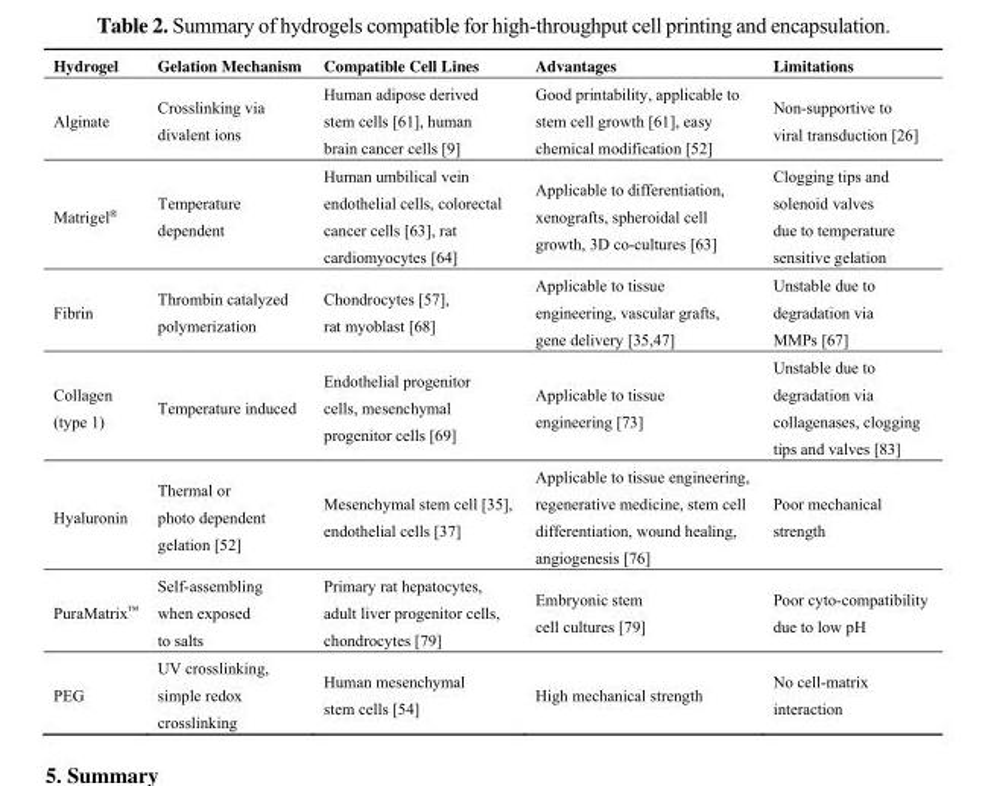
<table><thead><tr><td>Hydrogel</td><td>Gelation Mechanism</td><td>Compatible Cell Lines</td><td>Advantages</td><td>Limitations</td></tr></thead><tbody><tr><td>Alginate</td><td>Crosslinking via divalent ions</td><td>Human adipose derived stem cells [61], human brain cancer cells [9]</td><td>Good printability, applicable to stem cell growth [61], easy chemical modification [52]</td><td>Non-supportive to viral transduction [26]</td></tr><tr><td>Matrigel<sup>®</sup></td><td>Temperature dependent</td><td>Human umbilical vein endothelial cells, colorectal cancer cells [63], rat cardiomyocytes [64]</td><td>Applicable to differentiation, xenografts, spheroidal cell growth, 3D co-cultures [63]</td><td>Clogging tips and solenoid valves due to temperature sensitive gelation</td></tr><tr><td>Fibrin</td><td>Thrombin catalyzed polymerization</td><td>Chondrocytes [57], rat myoblast [68]</td><td>Applicable to tissue engineering, vascular grafts, gene delivery [35,47]</td><td>Unstable due to degradation via MMPs [67]</td></tr><tr><td>Collagen (type 1)</td><td>Temperature induced</td><td>Endothelial progenitor cells, mesenchymal progenitor cells [69]</td><td>Applicable to tissue engineering [73]</td><td>Unstable due to degradation via collagenases, clogging tips and valves [83]</td></tr><tr><td>Hyaluronin</td><td>Thermal or photo dependent gelation [52]</td><td>Mesenchymal stem cell [35], endothelial cells [37]</td><td>Applicable to tissue engineering, regenerative medicine, stem cell differentiation, wound healing, angiogenesis [76]</td><td>Poor mechanical strength</td></tr><tr><td>PuraMatrix<sup>™</sup></td><td>Self-assembling when exposed to salts</td><td>Primary rat hepatocytes, adult liver progenitor cells, chondrocytes [79]</td><td>Embryonic stem cell cultures [79]</td><td>Poor cyto-compatibility due to low pH</td></tr><tr><td>PEG</td><td>UV crosslinking, simple redox crosslinking</td><td>Human mesenchymal stem cells [54]</td><td>High mechanical strength</td><td>No cell-matrix interaction</td></tr></tbody></table>